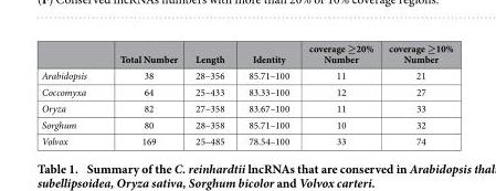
<table><thead><tr><td></td><td>Total Number</td><td>Length</td><td>Identity</td><td>coverage ≥20% Number</td><td>coverage ≥10% Number</td></tr></thead><tbody><tr><td>Arabidopsis</td><td>38</td><td>28–356</td><td>85.71–100</td><td>11</td><td>21</td></tr><tr><td>Coccomyxa</td><td>64</td><td>25–433</td><td>83.33–100</td><td>12</td><td>27</td></tr><tr><td>Oryza</td><td>82</td><td>27–358</td><td>83.67–100</td><td>11</td><td>33</td></tr><tr><td>Sorghum</td><td>80</td><td>28–358</td><td>85.71–100</td><td>10</td><td>32</td></tr><tr><td>Volvox</td><td>169</td><td>25–485</td><td>78.54–100</td><td>33</td><td>74</td></tr></tbody></table>